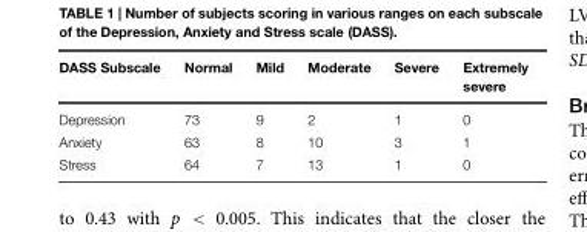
<table><thead><tr><td>DASS Subscale</td><td>Normal</td><td>Mild</td><td>Moderate</td><td>Severe</td><td>Extremely severe</td></tr></thead><tbody><tr><td>Depression</td><td>73</td><td>9</td><td>2</td><td>1</td><td>0</td></tr><tr><td>Anxiety</td><td>63</td><td>8</td><td>10</td><td>3</td><td>1</td></tr><tr><td>Stress</td><td>64</td><td>7</td><td>13</td><td>1</td><td>0</td></tr></tbody></table>